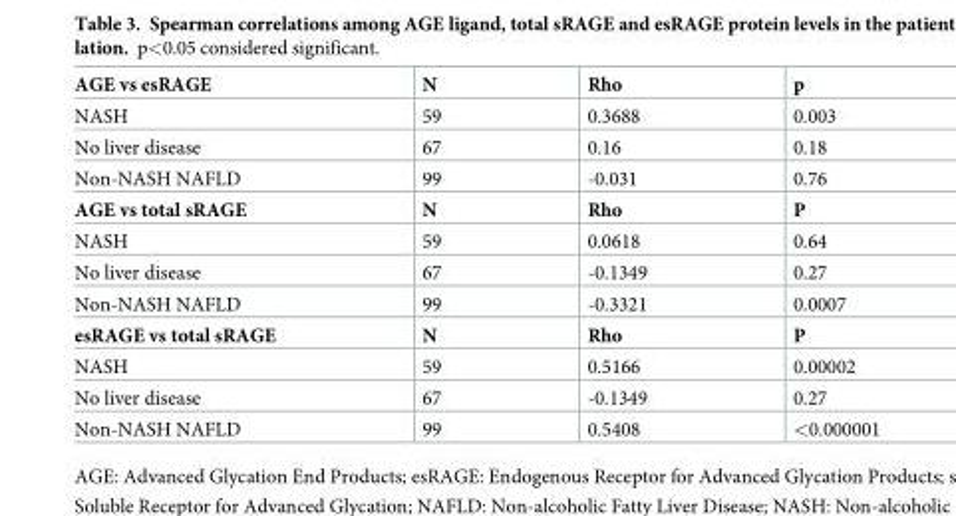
<table><tbody><tr><td>AGE vs esRAGE</td><td>N</td><td>Rho</td><td>p</td></tr><tr><td>NASH</td><td>59</td><td>0.3688</td><td>0.003</td></tr><tr><td>No liver disease</td><td>67</td><td>0.16</td><td>0.18</td></tr><tr><td>Non-NASH NAFLD</td><td>99</td><td>-0.031</td><td>0.76</td></tr><tr><td>AGE vs total sRAGE</td><td>N</td><td>Rho</td><td>P</td></tr><tr><td>NASH</td><td>59</td><td>0.0618</td><td>0.64</td></tr><tr><td>No liver disease</td><td>67</td><td>-0.1349</td><td>0.27</td></tr><tr><td>Non-NASH NAFLD</td><td>99</td><td>-0.3321</td><td>0.0007</td></tr><tr><td>esRAGE vs total sRAGE</td><td>N</td><td>Rho</td><td>P</td></tr><tr><td>NASH</td><td>59</td><td>0.5166</td><td>0.00002</td></tr><tr><td>No liver disease</td><td>67</td><td>-0.1349</td><td>0.27</td></tr><tr><td>Non-NASH NAFLD</td><td>99</td><td>0.5408</td><td>&lt;0.000001</td></tr></tbody></table>